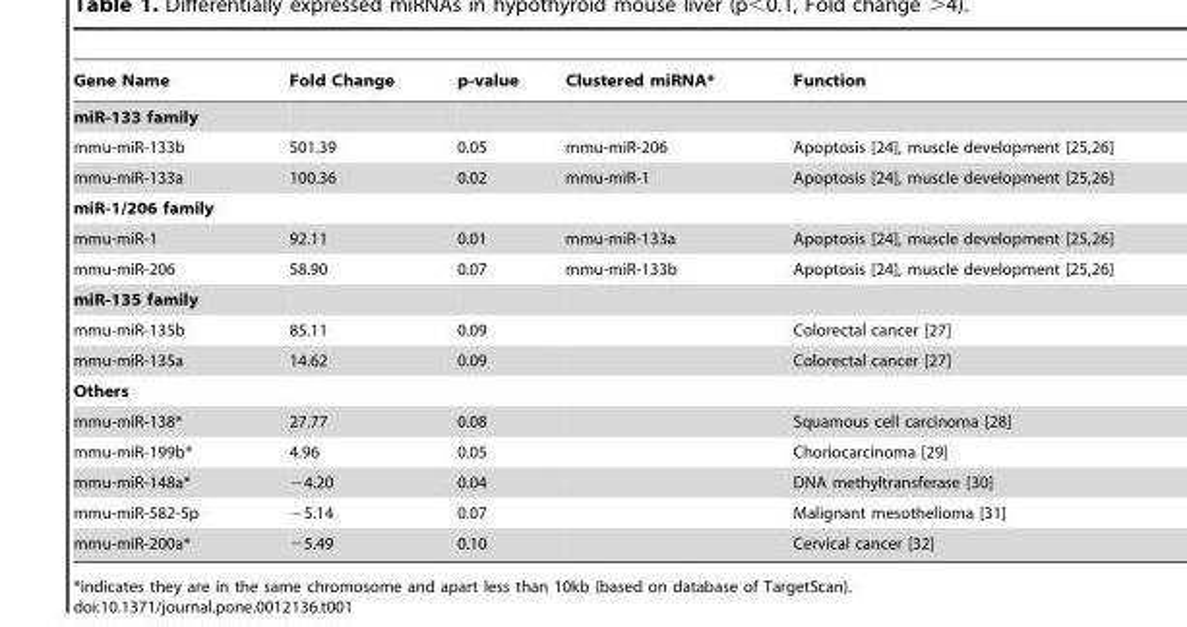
<table><thead><tr><td>Gene Name</td><td>Fold Change</td><td>p-value</td><td>Clustered miRNA*</td><td>Function</td></tr></thead><tbody><tr><td colspan="5">miR-133 family</td></tr><tr><td>mmu-miR-133b</td><td>501.39</td><td>0.05</td><td>mmu-miR-206</td><td>Apoptosis [24], muscle development [25,26]</td></tr><tr><td>mmu-miR-133a</td><td>100.36</td><td>0.02</td><td>mmu-miR-1</td><td>Apoptosis [24], muscle development [25,26]</td></tr><tr><td colspan="5">miR-1/206 family</td></tr><tr><td>mmu-miR-1</td><td>92.11</td><td>0.01</td><td>mmu-miR-133a</td><td>Apoptosis [24], muscle development [25,26]</td></tr><tr><td>mmu-miR-206</td><td>58.90</td><td>0.07</td><td>mmu-miR-133b</td><td>Apoptosis [24], muscle development [25,26]</td></tr><tr><td colspan="5">miR-135 family</td></tr><tr><td>mmu-miR-135b</td><td>85.11</td><td>0.09</td><td></td><td>Colorectal cancer [27]</td></tr><tr><td>mmu-miR-135a</td><td>14.62</td><td>0.09</td><td></td><td>Colorectal cancer [27]</td></tr><tr><td colspan="5">Others</td></tr><tr><td>mmu-miR-138*</td><td>27.77</td><td>0.08</td><td></td><td>Squamous cell carcinoma [28]</td></tr><tr><td>mmu-miR-199b*</td><td>4.96</td><td>0.05</td><td></td><td>Choriocarcinoma [29]</td></tr><tr><td>mmu-miR-148a*</td><td>−4.20</td><td>0.04</td><td></td><td>DNA methyltransferase [30]</td></tr><tr><td>mmu-miR-582-5p</td><td>−5.14</td><td>0.07</td><td></td><td>Malignant mesothelioma [31]</td></tr><tr><td>mmu-miR-200a*</td><td>−5.49</td><td>0.10</td><td></td><td>Cervical cancer [32]</td></tr></tbody></table>